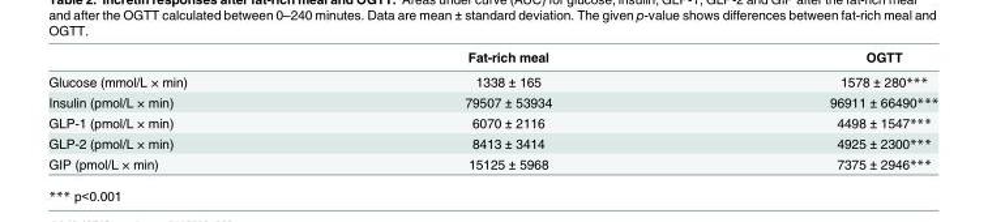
<table><thead><tr><td></td><td>Fat-rich meal</td><td>OGTT</td></tr></thead><tbody><tr><td>Glucose (mmol/L × min)</td><td>1338 ± 165</td><td>1578 ± 280***</td></tr><tr><td>Insulin (pmol/L × min)</td><td>79507 ± 53934</td><td>96911 ± 66490***</td></tr><tr><td>GLP-1 (pmol/L × min)</td><td>6070 ± 2116</td><td>4498 ± 1547***</td></tr><tr><td>GLP-2 (pmol/L × min)</td><td>8413 ± 3414</td><td>4925 ± 2300***</td></tr><tr><td>GIP (pmol/L × min)</td><td>15125 ± 5968</td><td>7375 ± 2946***</td></tr></tbody></table>